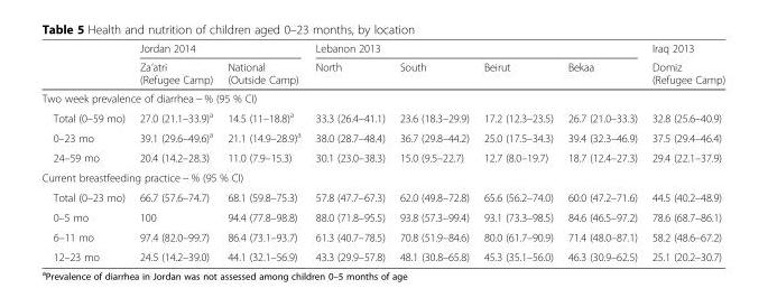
<table><thead><tr><td rowspan="2"></td><td colspan="2">Jordan 2014</td><td colspan="4">Lebanon 2013</td><td rowspan="2">Iraq 2013 Domiz (Refugee Camp)</td></tr><tr><td>Za’atri (Refugee Camp)</td><td>National (Outside Camp)</td><td>North</td><td>South</td><td>Beirut</td><td>Bekaa</td></tr></thead><tbody><tr><td colspan="8">Two week prevalence of diarrhea − % (95 % CI)</td></tr><tr><td>Total (0–59 mo)</td><td>27.0 (21.1–33.9)<sup>a</sup></td><td>14.5 (11–18.8)<sup>a</sup></td><td>33.3 (26.4–41.1)</td><td>23.6 (18.3–29.9)</td><td>17.2 (12.3–23.5)</td><td>26.7 (21.0–33.3)</td><td>32.8 (25.6–40.9)</td></tr><tr><td>0–23 mo</td><td>39.1 (29.6–49.6)<sup>a</sup></td><td>21.1 (14.9–28.9)<sup>a</sup></td><td>38.0 (28.7–48.4)</td><td>36.7 (29.8–44.2)</td><td>25.0 (17.5–34.3)</td><td>39.4 (32.3–46.9)</td><td>37.5 (29.4–46.4)</td></tr><tr><td>24–59 mo</td><td>20.4 (14.2–28.3)</td><td>11.0 (7.9–15.3)</td><td>30.1 (23.0–38.3)</td><td>15.0 (9.5–22.7)</td><td>12.7 (8.0–19.7)</td><td>18.7 (12.4–27.3)</td><td>29.4 (22.1–37.9)</td></tr><tr><td colspan="8">Current breastfeeding practice − % (95 % CI)</td></tr><tr><td>Total (0–23 mo)</td><td>66.7 (57.6–74.7)</td><td>68.1 (59.8–75.3)</td><td>57.8 (47.7–67.3)</td><td>62.0 (49.8–72.8)</td><td>65.6 (56.2–74.0)</td><td>60.0 (47.2–71.6)</td><td>44.5 (40.2–48.9)</td></tr><tr><td>0–5 mo</td><td>100</td><td>94.4 (77.8–98.8)</td><td>88.0 (71.8–95.5)</td><td>93.8 (57.3–99.4)</td><td>93.1 (73.3–98.5)</td><td>84.6 (46.5–97.2)</td><td>78.6 (68.7–86.1)</td></tr><tr><td>6–11 mo</td><td>97.4 (82.0–99.7)</td><td>86.4 (73.1–93.7)</td><td>61.3 (40.7–78.5)</td><td>70.8 (51.9–84.6)</td><td>80.0 (61.7–90.9)</td><td>71.4 (48.0–87.1)</td><td>58.2 (48.6–67.2)</td></tr><tr><td>12–23 mo</td><td>24.5 (14.2–39.0)</td><td>44.1 (32.1–56.9)</td><td>43.3 (29.9–57.8)</td><td>48.1 (30.8–65.8)</td><td>45.3 (35.1–56.0)</td><td>46.3 (30.9–62.5)</td><td>25.1 (20.2–30.7)</td></tr></tbody></table>